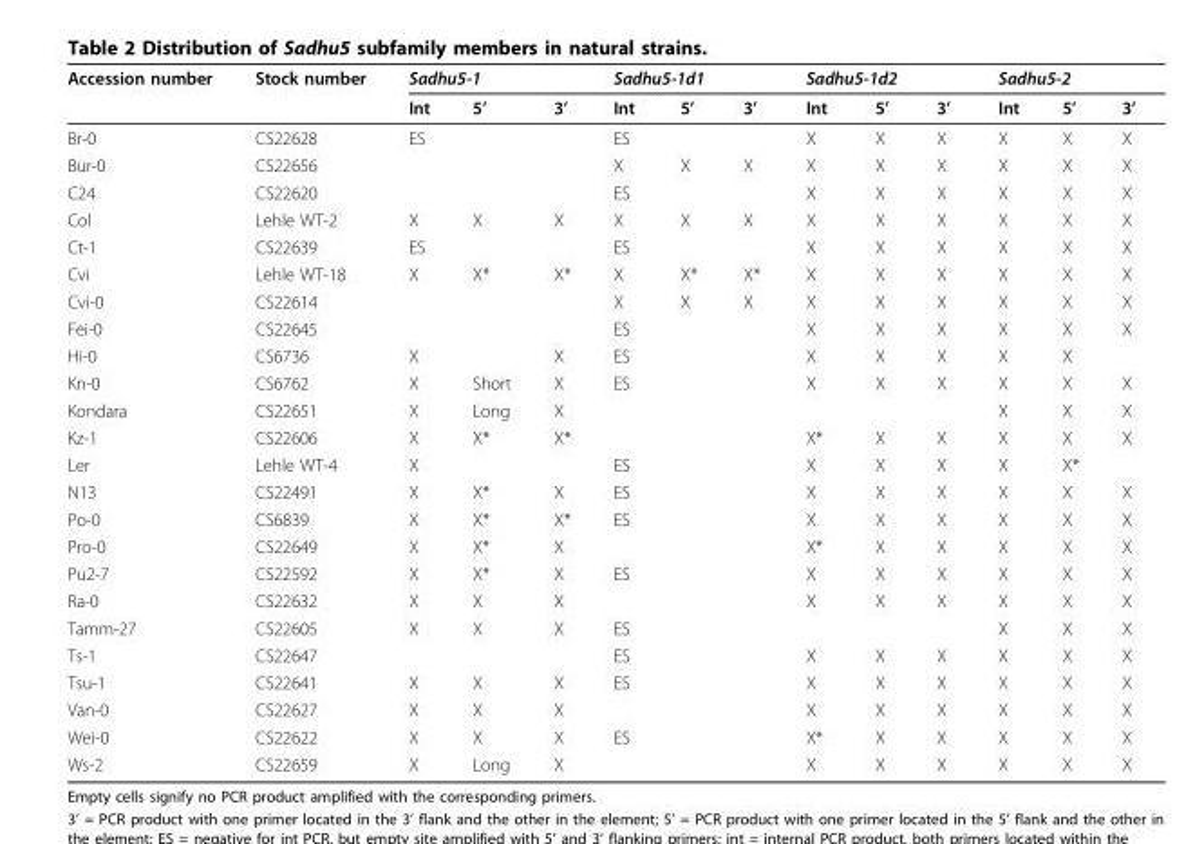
<table><thead><tr><td rowspan="2">Accession number</td><td rowspan="2">Stock number</td><td colspan="3">Sadhu5-1</td><td colspan="3">Sadhu5-1d1</td><td colspan="3">Sadhu5-1d2</td><td colspan="3">Sadhu5-2</td></tr><tr><td>Int</td><td>5’</td><td>3’</td><td>Int</td><td>5’</td><td>3’</td><td>Int</td><td>5’</td><td>3’</td><td>Int</td><td>5’</td><td>3’</td></tr></thead><tbody><tr><td>Br-0</td><td>CS22628</td><td>ES</td><td></td><td></td><td>ES</td><td></td><td></td><td>X</td><td>X</td><td>X</td><td>X</td><td>X</td><td>X</td></tr><tr><td>Bur-0</td><td>CS22656</td><td></td><td></td><td></td><td>X</td><td>X</td><td>X</td><td>X</td><td>X</td><td>X</td><td>X</td><td>X</td><td>X</td></tr><tr><td>C24</td><td>CS22620</td><td></td><td></td><td></td><td>ES</td><td></td><td></td><td>X</td><td>X</td><td>X</td><td>X</td><td>X</td><td>X</td></tr><tr><td>Col</td><td>Lehle WT-2</td><td>X</td><td>X</td><td>X</td><td>X</td><td>X</td><td>X</td><td>X</td><td>X</td><td>X</td><td>X</td><td>X</td><td>X</td></tr><tr><td>Ct-1</td><td>CS22639</td><td>ES</td><td></td><td></td><td>ES</td><td></td><td></td><td>X</td><td>X</td><td>X</td><td>X</td><td>X</td><td>X</td></tr><tr><td>Cvi</td><td>Lehle WT-18</td><td>X</td><td>X*</td><td>X*</td><td>X</td><td>X*</td><td>X*</td><td>X</td><td>X</td><td>X</td><td>X</td><td>X</td><td>X</td></tr><tr><td>Cvi-0</td><td>CS22614</td><td></td><td></td><td></td><td>X</td><td>X</td><td>X</td><td>X</td><td>X</td><td>X</td><td>X</td><td>X</td><td>X</td></tr><tr><td>Fei-0</td><td>CS22645</td><td></td><td></td><td></td><td>ES</td><td></td><td></td><td>X</td><td>X</td><td>X</td><td>X</td><td>X</td><td>X</td></tr><tr><td>Hi-0</td><td>CS6736</td><td>X</td><td></td><td>X</td><td>ES</td><td></td><td></td><td>X</td><td>X</td><td>X</td><td>X</td><td>X</td><td></td></tr><tr><td>Kn-0</td><td>CS6762</td><td>X</td><td>Short</td><td>X</td><td>ES</td><td></td><td></td><td>X</td><td>X</td><td>X</td><td>X</td><td>X</td><td>X</td></tr><tr><td>Kondara</td><td>CS22651</td><td>X</td><td>Long</td><td>X</td><td></td><td></td><td></td><td></td><td></td><td></td><td>X</td><td>X</td><td>X</td></tr><tr><td>Kz-1</td><td>CS22606</td><td>X</td><td>X*</td><td>X*</td><td></td><td></td><td></td><td>X*</td><td>X</td><td>X</td><td>X</td><td>X</td><td>X</td></tr><tr><td>Ler</td><td>Lehle WT-4</td><td>X</td><td></td><td></td><td>ES</td><td></td><td></td><td>X</td><td>X</td><td>X</td><td>X</td><td>X*</td><td></td></tr><tr><td>N13</td><td>CS22491</td><td>X</td><td>X*</td><td>X</td><td>ES</td><td></td><td></td><td>X</td><td>X</td><td>X</td><td>X</td><td>X</td><td>X</td></tr><tr><td>Po-0</td><td>CS6839</td><td>X</td><td>X*</td><td>X*</td><td>ES</td><td></td><td></td><td>X</td><td>X</td><td>X</td><td>X</td><td>X</td><td>X</td></tr><tr><td>Pro-0</td><td>CS22649</td><td>X</td><td>X*</td><td>X</td><td></td><td></td><td></td><td>X*</td><td>X</td><td>X</td><td>X</td><td>X</td><td>X</td></tr><tr><td>Pu2-7</td><td>CS22592</td><td>X</td><td>X*</td><td>X</td><td>ES</td><td></td><td></td><td>X</td><td>X</td><td>X</td><td>X</td><td>X</td><td>X</td></tr><tr><td>Ra-0</td><td>CS22632</td><td>X</td><td>X</td><td>X</td><td></td><td></td><td></td><td>X</td><td>X</td><td>X</td><td>X</td><td>X</td><td>X</td></tr><tr><td>Tamm-27</td><td>CS22605</td><td>X</td><td>X</td><td>X</td><td>ES</td><td></td><td></td><td></td><td></td><td></td><td>X</td><td>X</td><td>X</td></tr><tr><td>Ts-1</td><td>CS22647</td><td></td><td></td><td></td><td>ES</td><td></td><td></td><td>X</td><td>X</td><td>X</td><td>X</td><td>X</td><td>X</td></tr><tr><td>Tsu-1</td><td>CS22641</td><td>X</td><td>X</td><td>X</td><td>ES</td><td></td><td></td><td>X</td><td>X</td><td>X</td><td>X</td><td>X</td><td>X</td></tr><tr><td>Van-0</td><td>CS22627</td><td>X</td><td>X</td><td>X</td><td></td><td></td><td></td><td>X</td><td>X</td><td>X</td><td>X</td><td>X</td><td>X</td></tr><tr><td>Wei-0</td><td>CS22622</td><td>X</td><td>X</td><td>X</td><td>ES</td><td></td><td></td><td>X*</td><td>X</td><td>X</td><td>X</td><td>X</td><td>X</td></tr><tr><td>Ws-2</td><td>CS22659</td><td>X</td><td>Long</td><td>X</td><td></td><td></td><td></td><td>X</td><td>X</td><td>X</td><td>X</td><td>X</td><td>X</td></tr></tbody></table>